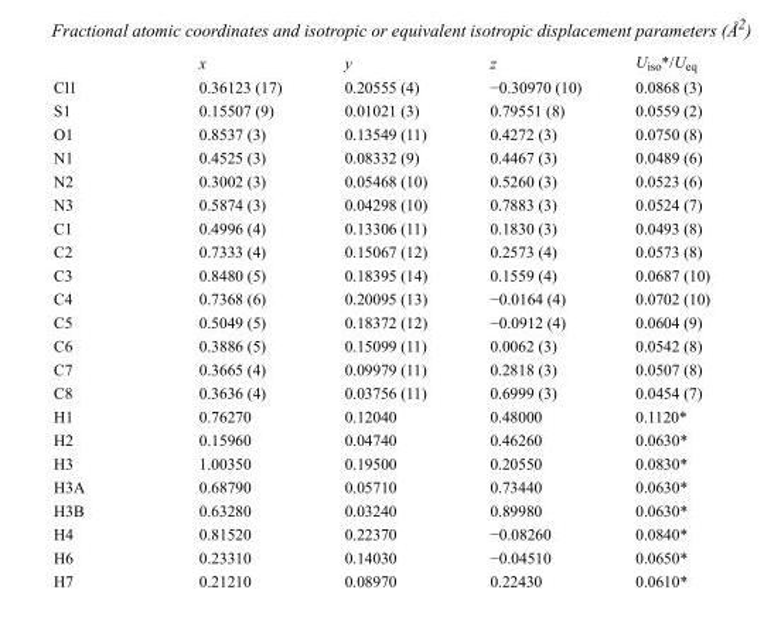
<table><thead><tr><td></td><td>x</td><td>y</td><td>z</td><td>U<sub>iso</sub>*/U<sub>eq</sub></td></tr></thead><tbody><tr><td>Cl1</td><td>0.36123 (17)</td><td>0.20555 (4)</td><td>−0.30970 (10)</td><td>0.0868 (3)</td></tr><tr><td>S1</td><td>0.15507 (9)</td><td>0.01021 (3)</td><td>0.79551 (8)</td><td>0.0559 (2)</td></tr><tr><td>O1</td><td>0.8537 (3)</td><td>0.13549 (11)</td><td>0.4272 (3)</td><td>0.0750 (8)</td></tr><tr><td>N1</td><td>0.4525 (3)</td><td>0.08332 (9)</td><td>0.4467 (3)</td><td>0.0489 (6)</td></tr><tr><td>N2</td><td>0.3002 (3)</td><td>0.05468 (10)</td><td>0.5260 (3)</td><td>0.0523 (6)</td></tr><tr><td>N3</td><td>0.5874 (3)</td><td>0.04298 (10)</td><td>0.7883 (3)</td><td>0.0524 (7)</td></tr><tr><td>C1</td><td>0.4996 (4)</td><td>0.13306 (11)</td><td>0.1830 (3)</td><td>0.0493 (8)</td></tr><tr><td>C2</td><td>0.7333 (4)</td><td>0.15067 (12)</td><td>0.2573 (4)</td><td>0.0573 (8)</td></tr><tr><td>C3</td><td>0.8480 (5)</td><td>0.18395 (14)</td><td>0.1559 (4)</td><td>0.0687 (10)</td></tr><tr><td>C4</td><td>0.7368 (6)</td><td>0.20095 (13)</td><td>−0.0164 (4)</td><td>0.0702 (10)</td></tr><tr><td>C5</td><td>0.5049 (5)</td><td>0.18372 (12)</td><td>−0.0912 (4)</td><td>0.0604 (9)</td></tr><tr><td>C6</td><td>0.3886 (5)</td><td>0.15099 (11)</td><td>0.0062 (3)</td><td>0.0542 (8)</td></tr><tr><td>C7</td><td>0.3665 (4)</td><td>0.09979 (11)</td><td>0.2818 (3)</td><td>0.0507 (8)</td></tr><tr><td>C8</td><td>0.3636 (4)</td><td>0.03756 (11)</td><td>0.6999 (3)</td><td>0.0454 (7)</td></tr><tr><td>H1</td><td>0.76270</td><td>0.12040</td><td>0.48000</td><td>0.1120*</td></tr><tr><td>H2</td><td>0.15960</td><td>0.04740</td><td>0.46260</td><td>0.0630*</td></tr><tr><td>H3</td><td>1.00350</td><td>0.19500</td><td>0.20550</td><td>0.0830*</td></tr><tr><td>H3A</td><td>0.68790</td><td>0.05710</td><td>0.73440</td><td>0.0630*</td></tr><tr><td>H3B</td><td>0.63280</td><td>0.03240</td><td>0.89980</td><td>0.0630*</td></tr><tr><td>H4</td><td>0.81520</td><td>0.22370</td><td>−0.08260</td><td>0.0840*</td></tr><tr><td>H6</td><td>0.23310</td><td>0.14030</td><td>−0.04510</td><td>0.0650*</td></tr><tr><td>H7</td><td>0.21210</td><td>0.08970</td><td>0.22430</td><td>0.0610*</td></tr></tbody></table>